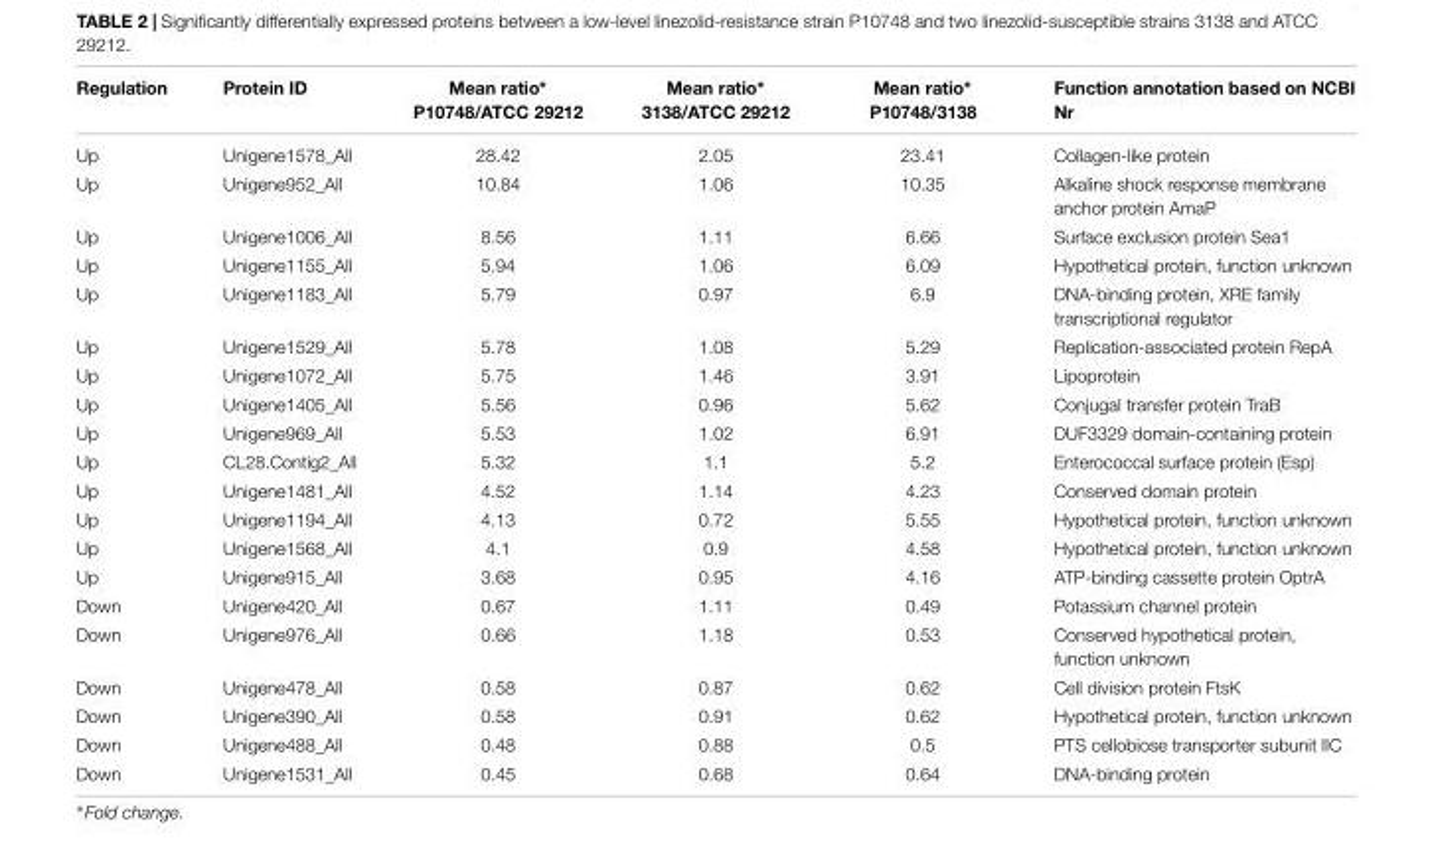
<table><thead><tr><td>Regulation</td><td>Protein ID</td><td>Mean ratio∗ P10748/ATCC 29212</td><td>Mean ratio∗ 3138/ATCC 29212</td><td>Mean ratio∗ P10748/3138</td><td>Function annotation based on NCBI Nr</td></tr></thead><tbody><tr><td>Up</td><td>Unigene1578_All</td><td>28.42</td><td>2.05</td><td>23.41</td><td>Collagen-like protein</td></tr><tr><td>Up</td><td>Unigene952_All</td><td>10.84</td><td>1.06</td><td>10.35</td><td>Alkaline shock response membrane anchor protein AmaP</td></tr><tr><td>Up</td><td>Unigene1006_All</td><td>8.56</td><td>1.11</td><td>6.66</td><td>Surface exclusion protein Sea1</td></tr><tr><td>Up</td><td>Unigene1155_All</td><td>5.94</td><td>1.06</td><td>6.09</td><td>Hypothetical protein, function unknown</td></tr><tr><td>Up</td><td>Unigene1183_All</td><td>5.79</td><td>0.97</td><td>6.9</td><td>DNA-binding protein, XRE family transcriptional regulator</td></tr><tr><td>Up</td><td>Unigene1529_All</td><td>5.78</td><td>1.08</td><td>5.29</td><td>Replication-associated protein RepA</td></tr><tr><td>Up</td><td>Unigene1072_All</td><td>5.75</td><td>1.46</td><td>3.91</td><td>Lipoprotein</td></tr><tr><td>Up</td><td>Unigene1405_All</td><td>5.56</td><td>0.96</td><td>5.62</td><td>Conjugal transfer protein TraB</td></tr><tr><td>Up</td><td>Unigene969_All</td><td>5.53</td><td>1.02</td><td>6.91</td><td>DUF3329 domain-containing protein</td></tr><tr><td>Up</td><td>CL28.Contig2_All</td><td>5.32</td><td>1.1</td><td>5.2</td><td>Enterococcal surface protein (Esp)</td></tr><tr><td>Up</td><td>Unigene1481_All</td><td>4.52</td><td>1.14</td><td>4.23</td><td>Conserved domain protein</td></tr><tr><td>Up</td><td>Unigene1194_All</td><td>4.13</td><td>0.72</td><td>5.55</td><td>Hypothetical protein, function unknown</td></tr><tr><td>Up</td><td>Unigene1568_All</td><td>4.1</td><td>0.9</td><td>4.58</td><td>Hypothetical protein, function unknown</td></tr><tr><td>Up</td><td>Unigene915_All</td><td>3.68</td><td>0.95</td><td>4.16</td><td>ATP-binding cassette protein OptrA</td></tr><tr><td>Down</td><td>Unigene420_All</td><td>0.67</td><td>1.11</td><td>0.49</td><td>Potassium channel protein</td></tr><tr><td>Down</td><td>Unigene976_All</td><td>0.66</td><td>1.18</td><td>0.53</td><td>Conserved hypothetical protein, function unknown</td></tr><tr><td>Down</td><td>Unigene478_All</td><td>0.58</td><td>0.87</td><td>0.62</td><td>Cell division protein FtsK</td></tr><tr><td>Down</td><td>Unigene390_All</td><td>0.58</td><td>0.91</td><td>0.62</td><td>Hypothetical protein, function unknown</td></tr><tr><td>Down</td><td>Unigene488_All</td><td>0.48</td><td>0.88</td><td>0.5</td><td>PTS cellobiose transporter subunit IIC</td></tr><tr><td>Down</td><td>Unigene1531_All</td><td>0.45</td><td>0.68</td><td>0.64</td><td>DNA-binding protein</td></tr></tbody></table>